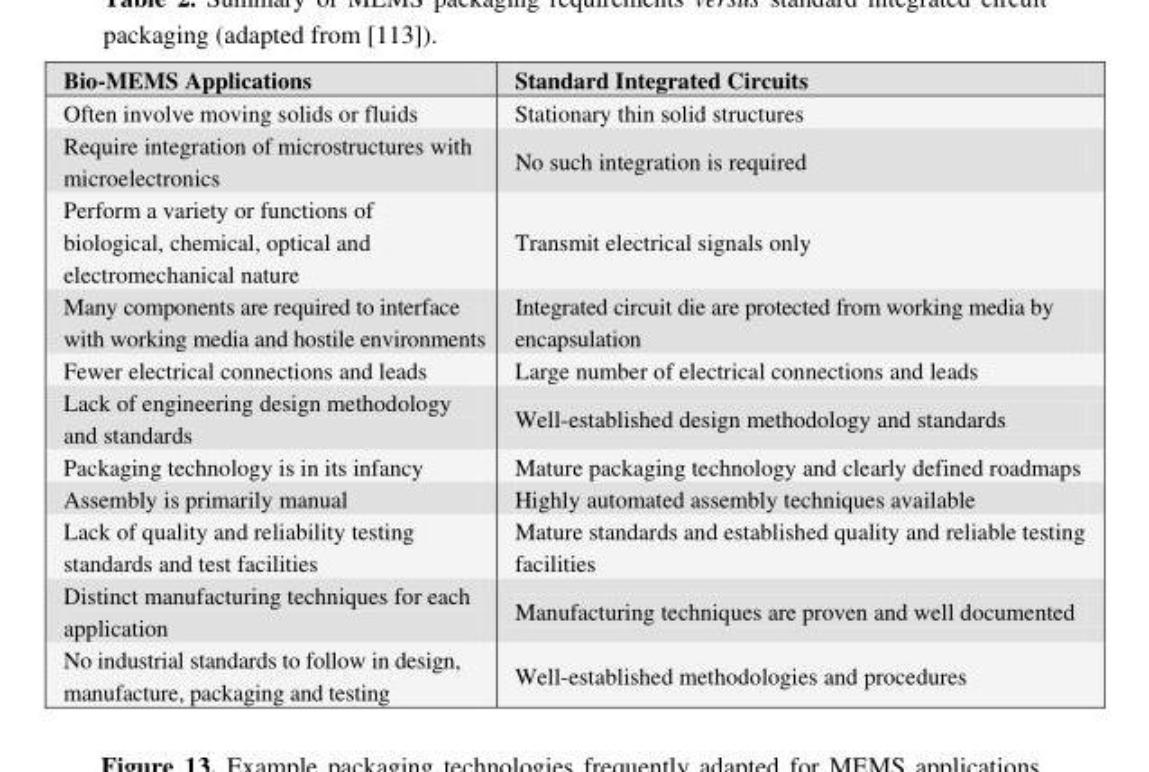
<table><thead><tr><td>Bio-MEMS Applications</td><td>Standard Integrated Circuits</td></tr></thead><tbody><tr><td>Often involve moving solids or fluids</td><td>Stationary thin solid structures</td></tr><tr><td>Require integration of microstructures with microelectronics</td><td>No such integration is required</td></tr><tr><td>Perform a variety or functions of biological, chemical, optical and electromechanical nature</td><td>Transmit electrical signals only</td></tr><tr><td>Many components are required to interface with working media and hostile environments</td><td>Integrated circuit die are protected from working media by encapsulation</td></tr><tr><td>Fewer electrical connections and leads</td><td>Large number of electrical connections and leads</td></tr><tr><td>Lack of engineering design methodology and standards</td><td>Well-established design methodology and standards</td></tr><tr><td>Packaging technology is in its infancy</td><td>Mature packaging technology and clearly defined roadmaps</td></tr><tr><td>Assembly is primarily manual</td><td>Highly automated assembly techniques available</td></tr><tr><td>Lack of quality and reliability testing standards and test facilities</td><td>Mature standards and established quality and reliable testing facilities</td></tr><tr><td>Distinct manufacturing techniques for each application</td><td>Manufacturing techniques are proven and well documented</td></tr><tr><td>No industrial standards to follow in design, manufacture, packaging and testing</td><td>Well-established methodologies and procedures</td></tr></tbody></table>